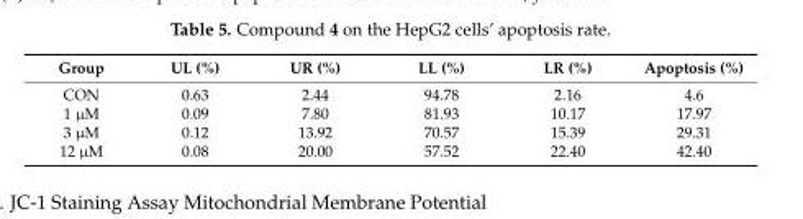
<table><thead><tr><td>Group</td><td>UL (%)</td><td>UR (%)</td><td>LL (%)</td><td>LR (%)</td><td>Apoptosis (%)</td></tr></thead><tbody><tr><td>CON</td><td>0.63</td><td>2.44</td><td>94.78</td><td>2.16</td><td>4.6</td></tr><tr><td>1 µM</td><td>0.09</td><td>7.80</td><td>81.93</td><td>10.17</td><td>17.97</td></tr><tr><td>3 µM</td><td>0.12</td><td>13.92</td><td>70.57</td><td>15.39</td><td>29.31</td></tr><tr><td>12 µM</td><td>0.08</td><td>20.00</td><td>57.52</td><td>22.40</td><td>42.40</td></tr></tbody></table>